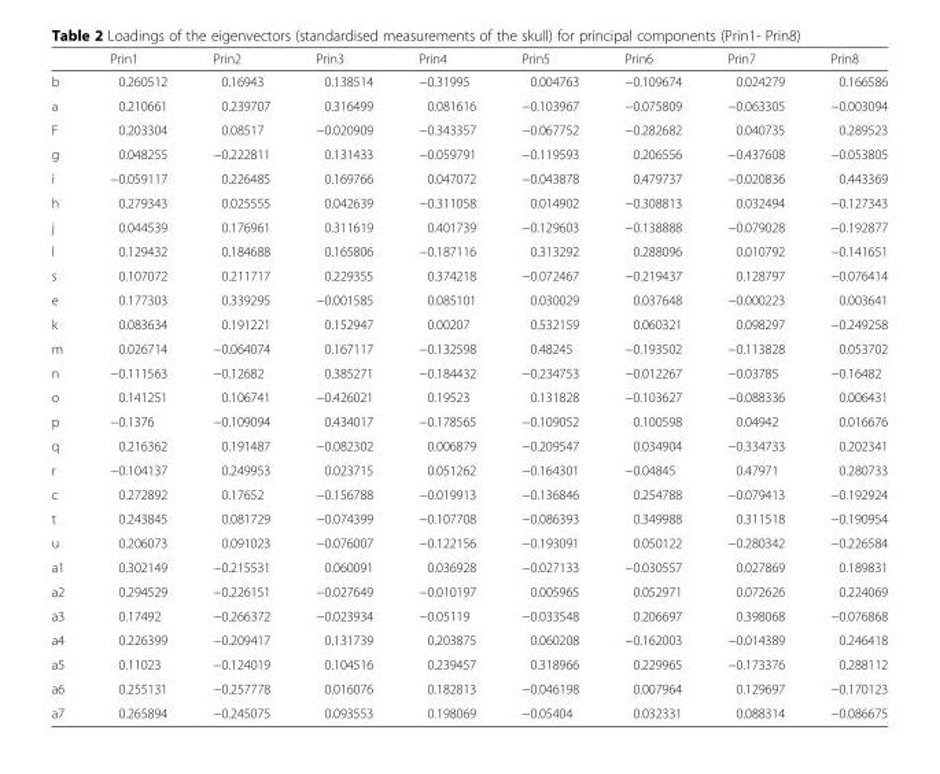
<table><thead><tr><td></td><td>Prin1</td><td>Prin2</td><td>Prin3</td><td>Prin4</td><td>Prin5</td><td>Prin6</td><td>Prin7</td><td>Prin8</td></tr></thead><tbody><tr><td>b</td><td>0.260512</td><td>0.16943</td><td>0.138514</td><td>−0.31995</td><td>0.004763</td><td>−0.109674</td><td>0.024279</td><td>0.166586</td></tr><tr><td>a</td><td>0.210661</td><td>0.239707</td><td>0.316499</td><td>0.081616</td><td>−0.103967</td><td>−0.075809</td><td>−0.063305</td><td>−0.003094</td></tr><tr><td>F</td><td>0.203304</td><td>0.08517</td><td>−0.020909</td><td>−0.343357</td><td>−0.067752</td><td>−0.282682</td><td>0.040735</td><td>0.289523</td></tr><tr><td>g</td><td>0.048255</td><td>−0.222811</td><td>0.131433</td><td>−0.059791</td><td>−0.119593</td><td>0.206556</td><td>−0.437608</td><td>−0.053805</td></tr><tr><td>i</td><td>−0.059117</td><td>0.226485</td><td>0.169766</td><td>0.047072</td><td>−0.043878</td><td>0.479737</td><td>−0.020836</td><td>0.443369</td></tr><tr><td>h</td><td>0.279343</td><td>0.025555</td><td>0.042639</td><td>−0.311058</td><td>0.014902</td><td>−0.308813</td><td>0.032494</td><td>−0.127343</td></tr><tr><td>j</td><td>0.044539</td><td>0.176961</td><td>0.311619</td><td>0.401739</td><td>−0.129603</td><td>−0.138888</td><td>−0.079028</td><td>−0.192877</td></tr><tr><td>l</td><td>0.129432</td><td>0.184688</td><td>0.165806</td><td>−0.187116</td><td>0.313292</td><td>0.288096</td><td>0.010792</td><td>−0.141651</td></tr><tr><td>s</td><td>0.107072</td><td>0.211717</td><td>0.229355</td><td>0.374218</td><td>−0.072467</td><td>−0.219437</td><td>0.128797</td><td>−0.076414</td></tr><tr><td>e</td><td>0.177303</td><td>0.339295</td><td>−0.001585</td><td>0.085101</td><td>0.030029</td><td>0.037648</td><td>−0.000223</td><td>0.003641</td></tr><tr><td>k</td><td>0.083634</td><td>0.191221</td><td>0.152947</td><td>0.00207</td><td>0.532159</td><td>0.060321</td><td>0.098297</td><td>−0.249258</td></tr><tr><td>m</td><td>0.026714</td><td>−0.064074</td><td>0.167117</td><td>−0.132598</td><td>0.48245</td><td>−0.193502</td><td>−0.113828</td><td>0.053702</td></tr><tr><td>n</td><td>−0.111563</td><td>−0.12682</td><td>0.385271</td><td>−0.184432</td><td>−0.234753</td><td>−0.012267</td><td>−0.03785</td><td>−0.16482</td></tr><tr><td>o</td><td>0.141251</td><td>0.106741</td><td>−0.426021</td><td>0.19523</td><td>0.131828</td><td>−0.103627</td><td>−0.088336</td><td>0.006431</td></tr><tr><td>p</td><td>−0.1376</td><td>−0.109094</td><td>0.434017</td><td>−0.178565</td><td>−0.109052</td><td>0.100598</td><td>0.04942</td><td>0.016676</td></tr><tr><td>q</td><td>0.216362</td><td>0.191487</td><td>−0.082302</td><td>0.006879</td><td>−0.209547</td><td>0.034904</td><td>−0.334733</td><td>0.202341</td></tr><tr><td>r</td><td>−0.104137</td><td>0.249953</td><td>0.023715</td><td>0.051262</td><td>−0.164301</td><td>−0.04845</td><td>0.47971</td><td>0.280733</td></tr><tr><td>c</td><td>0.272892</td><td>0.17652</td><td>−0.156788</td><td>−0.019913</td><td>−0.136846</td><td>0.254788</td><td>−0.079413</td><td>−0.192924</td></tr><tr><td>t</td><td>0.243845</td><td>0.081729</td><td>−0.074399</td><td>−0.107708</td><td>−0.086393</td><td>0.349988</td><td>0.311518</td><td>−0.190954</td></tr><tr><td>u</td><td>0.206073</td><td>0.091023</td><td>−0.076007</td><td>−0.122156</td><td>−0.193091</td><td>0.050122</td><td>−0.280342</td><td>−0.226584</td></tr><tr><td>a1</td><td>0.302149</td><td>−0.215531</td><td>0.060091</td><td>0.036928</td><td>−0.027133</td><td>−0.030557</td><td>0.027869</td><td>0.189831</td></tr><tr><td>a2</td><td>0.294529</td><td>−0.226151</td><td>−0.027649</td><td>−0.010197</td><td>0.005965</td><td>0.052971</td><td>0.072626</td><td>0.224069</td></tr><tr><td>a3</td><td>0.17492</td><td>−0.266372</td><td>−0.023934</td><td>−0.05119</td><td>−0.033548</td><td>0.206697</td><td>0.398068</td><td>−0.076868</td></tr><tr><td>a4</td><td>0.226399</td><td>−0.209417</td><td>0.131739</td><td>0.203875</td><td>0.060208</td><td>−0.162003</td><td>−0.014389</td><td>0.246418</td></tr><tr><td>a5</td><td>0.11023</td><td>−0.124019</td><td>0.104516</td><td>0.239457</td><td>0.318966</td><td>0.229965</td><td>−0.173376</td><td>0.288112</td></tr><tr><td>a6</td><td>0.255131</td><td>−0.257778</td><td>0.016076</td><td>0.182813</td><td>−0.046198</td><td>0.007964</td><td>0.129697</td><td>−0.170123</td></tr><tr><td>a7</td><td>0.265894</td><td>−0.245075</td><td>0.093553</td><td>0.198069</td><td>−0.05404</td><td>0.032331</td><td>0.088314</td><td>−0.086675</td></tr></tbody></table>